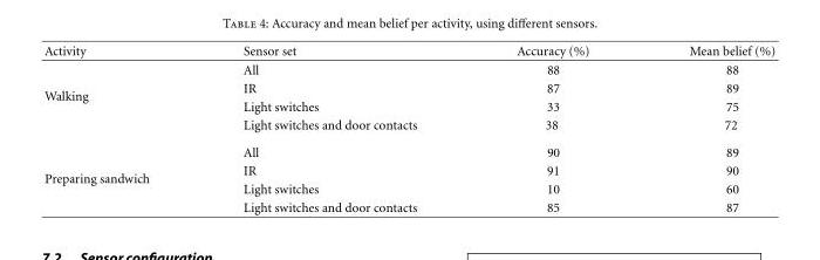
<table><thead><tr><td>Activity</td><td>Sensor set</td><td>Accuracy (%)</td><td>Mean belief (%)</td></tr></thead><tbody><tr><td rowspan="4">Walking</td><td>All</td><td>88</td><td>88</td></tr><tr><td>IR</td><td>87</td><td>89</td></tr><tr><td>Light switches</td><td>33</td><td>75</td></tr><tr><td>Light switches and door contacts</td><td>38</td><td>72</td></tr><tr><td rowspan="4">Preparing sandwich</td><td>All</td><td>90</td><td>89</td></tr><tr><td>IR</td><td>91</td><td>90</td></tr><tr><td>Light switches</td><td>10</td><td>60</td></tr><tr><td>Light switches and door contacts</td><td>85</td><td>87</td></tr></tbody></table>